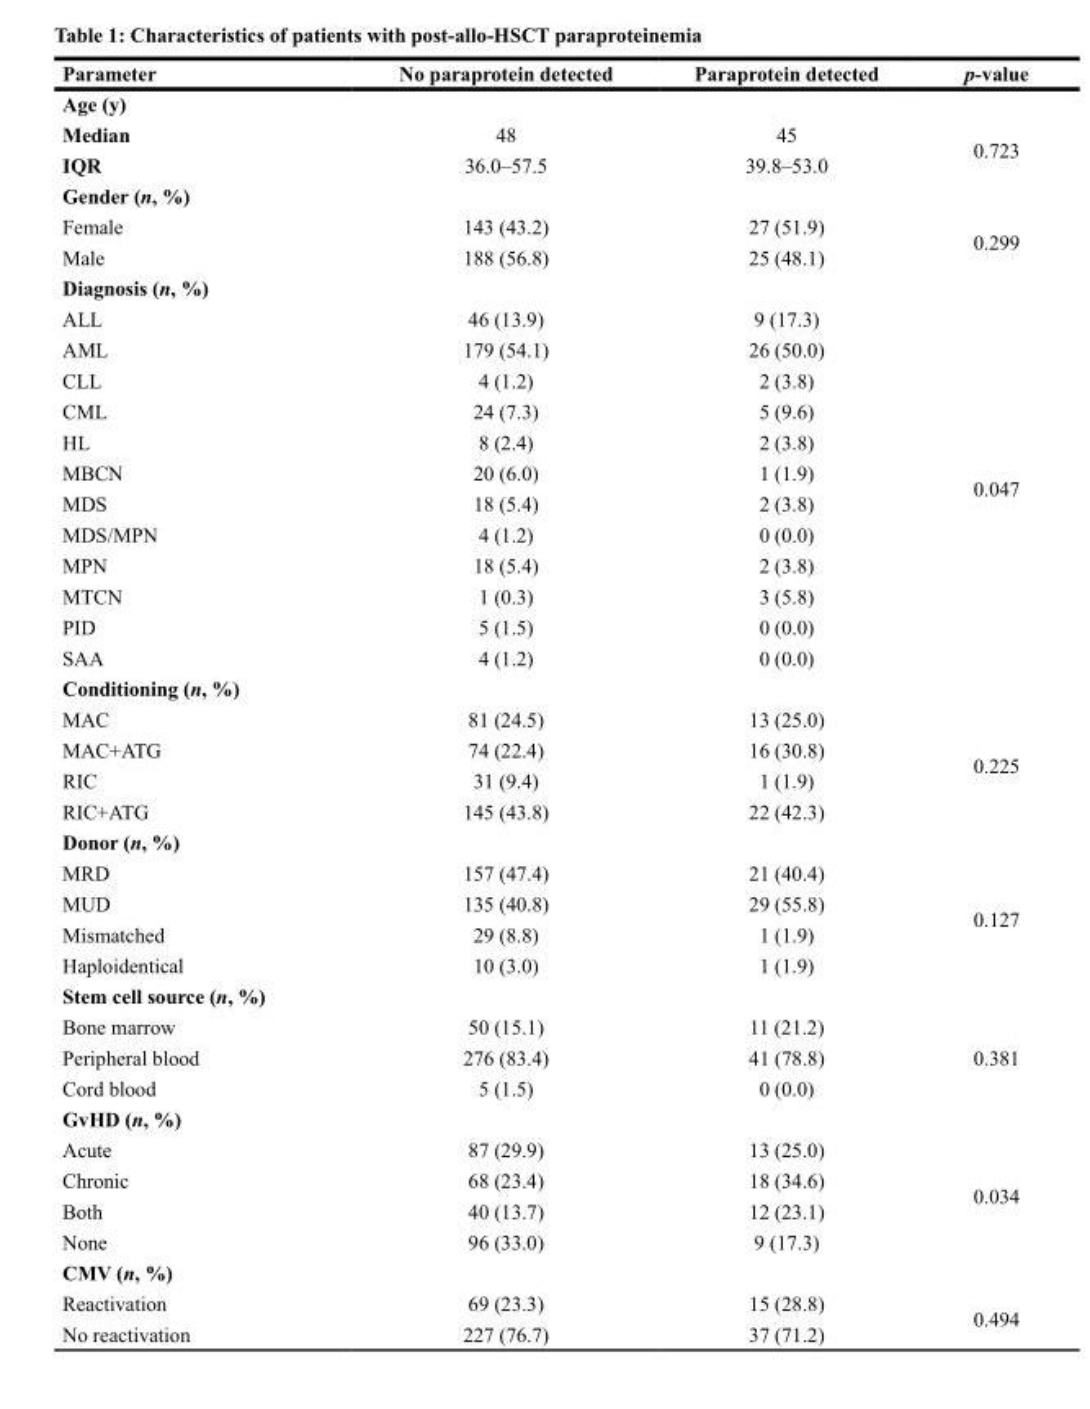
<table><thead><tr><td>Parameter</td><td>No paraprotein detected</td><td>Paraprotein detected</td><td>p-value</td></tr></thead><tbody><tr><td colspan="4">Age (y)</td></tr><tr><td>Median</td><td>48</td><td>45</td><td rowspan="2">0.723</td></tr><tr><td>IQR</td><td>36.0–57.5</td><td>39.8–53.0</td></tr><tr><td colspan="4">Gender (n, %)</td></tr><tr><td>Female</td><td>143 (43.2)</td><td>27 (51.9)</td><td rowspan="2">0.299</td></tr><tr><td>Male</td><td>188 (56.8)</td><td>25 (48.1)</td></tr><tr><td colspan="4">Diagnosis (n, %)</td></tr><tr><td>ALL</td><td>46 (13.9)</td><td>9 (17.3)</td><td rowspan="12">0.047</td></tr><tr><td>AML</td><td>179 (54.1)</td><td>26 (50.0)</td></tr><tr><td>CLL</td><td>4 (1.2)</td><td>2 (3.8)</td></tr><tr><td>CML</td><td>24 (7.3)</td><td>5 (9.6)</td></tr><tr><td>HL</td><td>8 (2.4)</td><td>2 (3.8)</td></tr><tr><td>MBCN</td><td>20 (6.0)</td><td>1 (1.9)</td></tr><tr><td>MDS</td><td>18 (5.4)</td><td>2 (3.8)</td></tr><tr><td>MDS/MPN</td><td>4 (1.2)</td><td>0 (0.0)</td></tr><tr><td>MPN</td><td>18 (5.4)</td><td>2 (3.8)</td></tr><tr><td>MTCN</td><td>1 (0.3)</td><td>3 (5.8)</td></tr><tr><td>PID</td><td>5 (1.5)</td><td>0 (0.0)</td></tr><tr><td>SAA</td><td>4 (1.2)</td><td>0 (0.0)</td></tr><tr><td colspan="4">Conditioning (n, %)</td></tr><tr><td>MAC</td><td>81 (24.5)</td><td>13 (25.0)</td><td rowspan="4">0.225</td></tr><tr><td>MAC+ATG</td><td>74 (22.4)</td><td>16 (30.8)</td></tr><tr><td>RIC</td><td>31 (9.4)</td><td>1 (1.9)</td></tr><tr><td>RIC+ATG</td><td>145 (43.8)</td><td>22 (42.3)</td></tr><tr><td colspan="4">Donor (n, %)</td></tr><tr><td>MRD</td><td>157 (47.4)</td><td>21 (40.4)</td><td rowspan="4">0.127</td></tr><tr><td>MUD</td><td>135 (40.8)</td><td>29 (55.8)</td></tr><tr><td>Mismatched</td><td>29 (8.8)</td><td>1 (1.9)</td></tr><tr><td>Haploidentical</td><td>10 (3.0)</td><td>1 (1.9)</td></tr><tr><td colspan="4">Stem cell source (n, %)</td></tr><tr><td>Bone marrow</td><td>50 (15.1)</td><td>11 (21.2)</td><td rowspan="3">0.381</td></tr><tr><td>Peripheral blood</td><td>276 (83.4)</td><td>41 (78.8)</td></tr><tr><td>Cord blood</td><td>5 (1.5)</td><td>0 (0.0)</td></tr><tr><td colspan="4">GvHD (n, %)</td></tr><tr><td>Acute</td><td>87 (29.9)</td><td>13 (25.0)</td><td rowspan="4">0.034</td></tr><tr><td>Chronic</td><td>68 (23.4)</td><td>18 (34.6)</td></tr><tr><td>Both</td><td>40 (13.7)</td><td>12 (23.1)</td></tr><tr><td>None</td><td>96 (33.0)</td><td>9 (17.3)</td></tr><tr><td colspan="4">CMV (n, %)</td></tr><tr><td>Reactivation</td><td>69 (23.3)</td><td>15 (28.8)</td><td rowspan="2">0.494</td></tr><tr><td>No reactivation</td><td>227 (76.7)</td><td>37 (71.2)</td></tr></tbody></table>